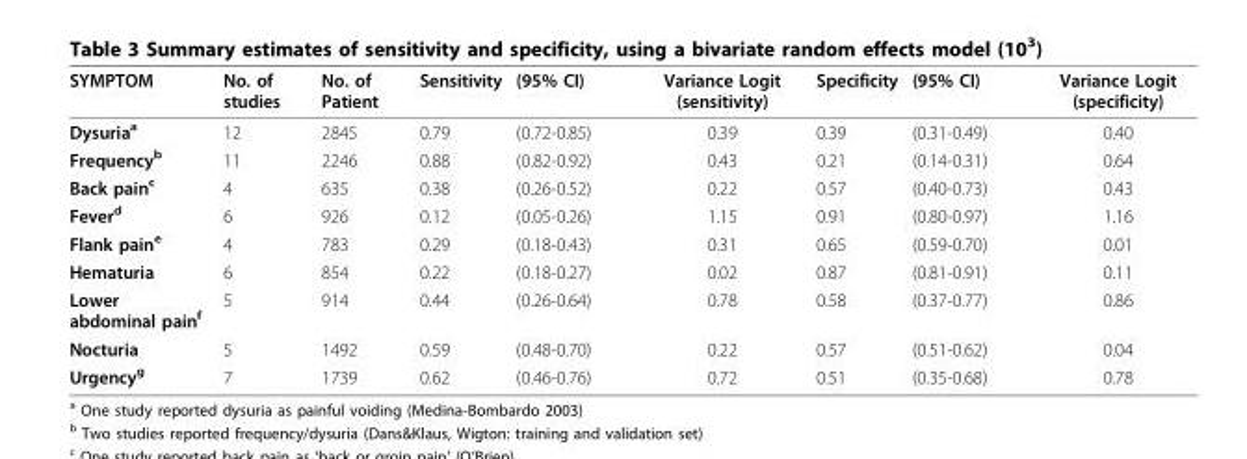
<table><thead><tr><td>SYMPTOM</td><td>No. of studies</td><td>No. of Patient</td><td>Sensitivity</td><td>(95% CI)</td><td>Variance Logit (sensitivity)</td><td>Specificity</td><td>(95% CI)</td><td>Variance Logit (specificity)</td></tr></thead><tbody><tr><td>Dysuria<sup>a</sup></td><td>12</td><td>2845</td><td>0.79</td><td>(0.72-0.85)</td><td>0.39</td><td>0.39</td><td>(0.31-0.49)</td><td>0.40</td></tr><tr><td>Frequency<sup>b</sup></td><td>11</td><td>2246</td><td>0.88</td><td>(0.82-0.92)</td><td>0.43</td><td>0.21</td><td>(0.14-0.31)</td><td>0.64</td></tr><tr><td>Back pain<sup>c</sup></td><td>4</td><td>635</td><td>0.38</td><td>(0.26-0.52)</td><td>0.22</td><td>0.57</td><td>(0.40-0.73)</td><td>0.43</td></tr><tr><td>Fever<sup>d</sup></td><td>6</td><td>926</td><td>0.12</td><td>(0.05-0.26)</td><td>1.15</td><td>0.91</td><td>(0.80-0.97)</td><td>1.16</td></tr><tr><td>Flank pain<sup>e</sup></td><td>4</td><td>783</td><td>0.29</td><td>(0.18-0.43)</td><td>0.31</td><td>0.65</td><td>(0.59-0.70)</td><td>0.01</td></tr><tr><td>Hematuria</td><td>6</td><td>854</td><td>0.22</td><td>(0.18-0.27)</td><td>0.02</td><td>0.87</td><td>(0.81-0.91)</td><td>0.11</td></tr><tr><td>Lower abdominal pain<sup>f</sup></td><td>5</td><td>914</td><td>0.44</td><td>(0.26-0.64)</td><td>0.78</td><td>0.58</td><td>(0.37-0.77)</td><td>0.86</td></tr><tr><td>Nocturia</td><td>5</td><td>1492</td><td>0.59</td><td>(0.48-0.70)</td><td>0.22</td><td>0.57</td><td>(0.51-0.62)</td><td>0.04</td></tr><tr><td>Urgency<sup>g</sup></td><td>7</td><td>1739</td><td>0.62</td><td>(0.46-0.76)</td><td>0.72</td><td>0.51</td><td>(0.35-0.68)</td><td>0.78</td></tr></tbody></table>